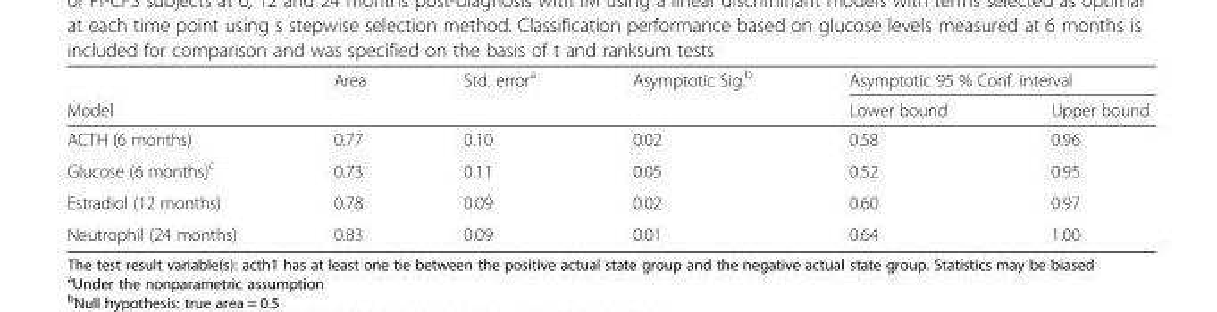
<table><thead><tr><td rowspan="2">Model</td><td rowspan="2">Area</td><td rowspan="2">Std. error<sup>a</sup></td><td rowspan="2">Asymptotic Sig.<sup>b</sup></td><td colspan="2">Asymptotic 95 % Conf. interval</td></tr><tr><td>Lower bound</td><td>Upper bound</td></tr></thead><tbody><tr><td>ACTH (6 months)</td><td>0.77</td><td>0.10</td><td>0.02</td><td>0.58</td><td>0.96</td></tr><tr><td>Glucose (6 months)<sup>c</sup></td><td>0.73</td><td>0.11</td><td>0.05</td><td>0.52</td><td>0.95</td></tr><tr><td>Estradiol (12 months)</td><td>0.78</td><td>0.09</td><td>0.02</td><td>0.60</td><td>0.97</td></tr><tr><td>Neutrophil (24 months)</td><td>0.83</td><td>0.09</td><td>0.01</td><td>0.64</td><td>1.00</td></tr></tbody></table>